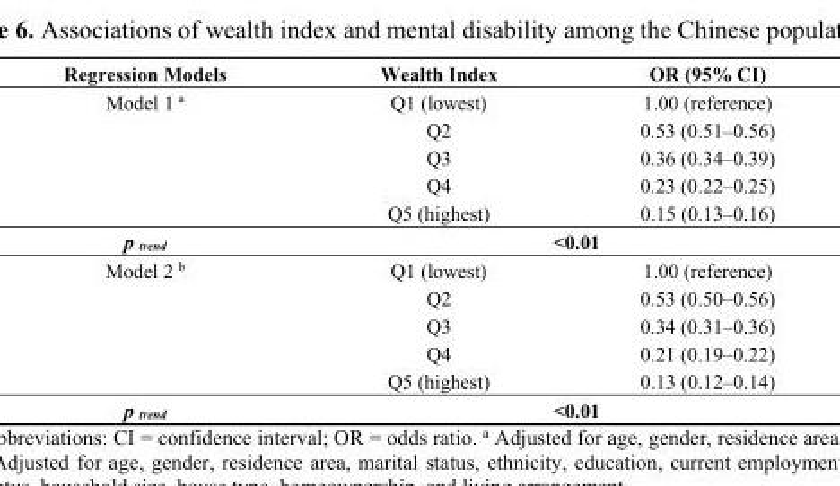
<table><thead><tr><td>Regression Models</td><td>Wealth Index</td><td>OR (95% CI)</td></tr></thead><tbody><tr><td rowspan="5">Model 1 <sup>a</sup></td><td>Q1 (lowest)</td><td>1.00 (reference)</td></tr><tr><td>Q2</td><td>0.53 (0.51–0.56)</td></tr><tr><td>Q3</td><td>0.36 (0.34–0.39)</td></tr><tr><td>Q4</td><td>0.23 (0.22–0.25)</td></tr><tr><td>Q5 (highest)</td><td>0.15 (0.13–0.16)</td></tr><tr><td>p <sub>trend</sub></td><td colspan="2">&lt;0.01</td></tr><tr><td rowspan="5">Model 2 <sup>b</sup></td><td>Q1 (lowest)</td><td>1.00 (reference)</td></tr><tr><td>Q2</td><td>0.53 (0.50–0.56)</td></tr><tr><td>Q3</td><td>0.34 (0.31–0.36)</td></tr><tr><td>Q4</td><td>0.21 (0.19–0.22)</td></tr><tr><td>Q5 (highest)</td><td>0.13 (0.12–0.14)</td></tr><tr><td>p <sub>trend</sub></td><td colspan="2">&lt;0.01</td></tr></tbody></table>